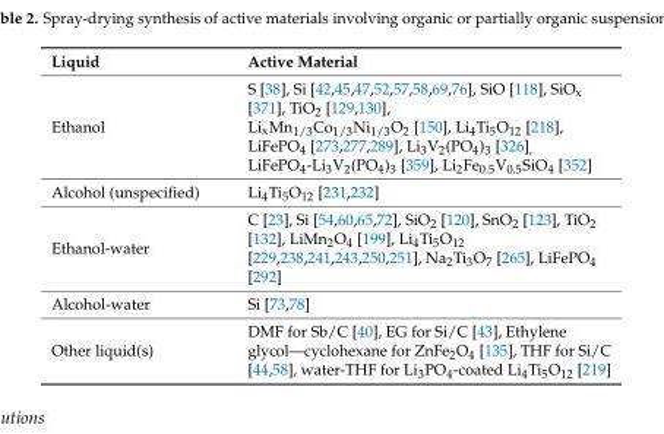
<table><thead><tr><td>Liquid</td><td>Active Material</td></tr></thead><tbody><tr><td>Ethanol</td><td>S [38], Si [42,45,47,52,57,58,69,76], SiO [118], SiO<sub>x</sub> [371], TiO<sub>2</sub> [129,130], Li<sub>x</sub>Mn<sub>1/3</sub>Co<sub>1/3</sub>Ni<sub>1/3</sub>O<sub>2</sub> [150], Li<sub>4</sub>Ti<sub>5</sub>O<sub>12</sub> [218], LiFePO<sub>4</sub> [273,277,289], Li<sub>3</sub>V<sub>2</sub>(PO<sub>4</sub>)<sub>3</sub> [326]<sub>,</sub> LiFePO<sub>4</sub>-Li<sub>3</sub>V<sub>2</sub>(PO<sub>4</sub>)<sub>3</sub> [359], Li<sub>2</sub>Fe<sub>0.5</sub>V<sub>0.5</sub>SiO<sub>4</sub> [352]</td></tr><tr><td>Alcohol (unspecified)</td><td>Li<sub>4</sub>Ti<sub>5</sub>O<sub>12</sub> [231,232]</td></tr><tr><td>Ethanol-water</td><td>C [23], Si [54,60,65,72], SiO<sub>2</sub> [120], SnO<sub>2</sub> [123], TiO<sub>2</sub> [132], LiMn<sub>2</sub>O<sub>4</sub> [199], Li<sub>4</sub>Ti<sub>5</sub>O<sub>12</sub> [229,238,241,243,250,251], Na<sub>2</sub>Ti<sub>3</sub>O<sub>7</sub> [265], LiFePO<sub>4</sub> [292]</td></tr><tr><td>Alcohol-water</td><td>Si [73,78]</td></tr><tr><td>Other liquid(s)</td><td>DMF for Sb/C [40], EG for Si/C [43], Ethylene glycol—cyclohexane for ZnFe<sub>2</sub>O<sub>4</sub> [135], THF for Si/C [44,58], water-THF for Li<sub>3</sub>PO<sub>4</sub>-coated Li<sub>4</sub>Ti<sub>5</sub>O<sub>12</sub> [219]</td></tr></tbody></table>